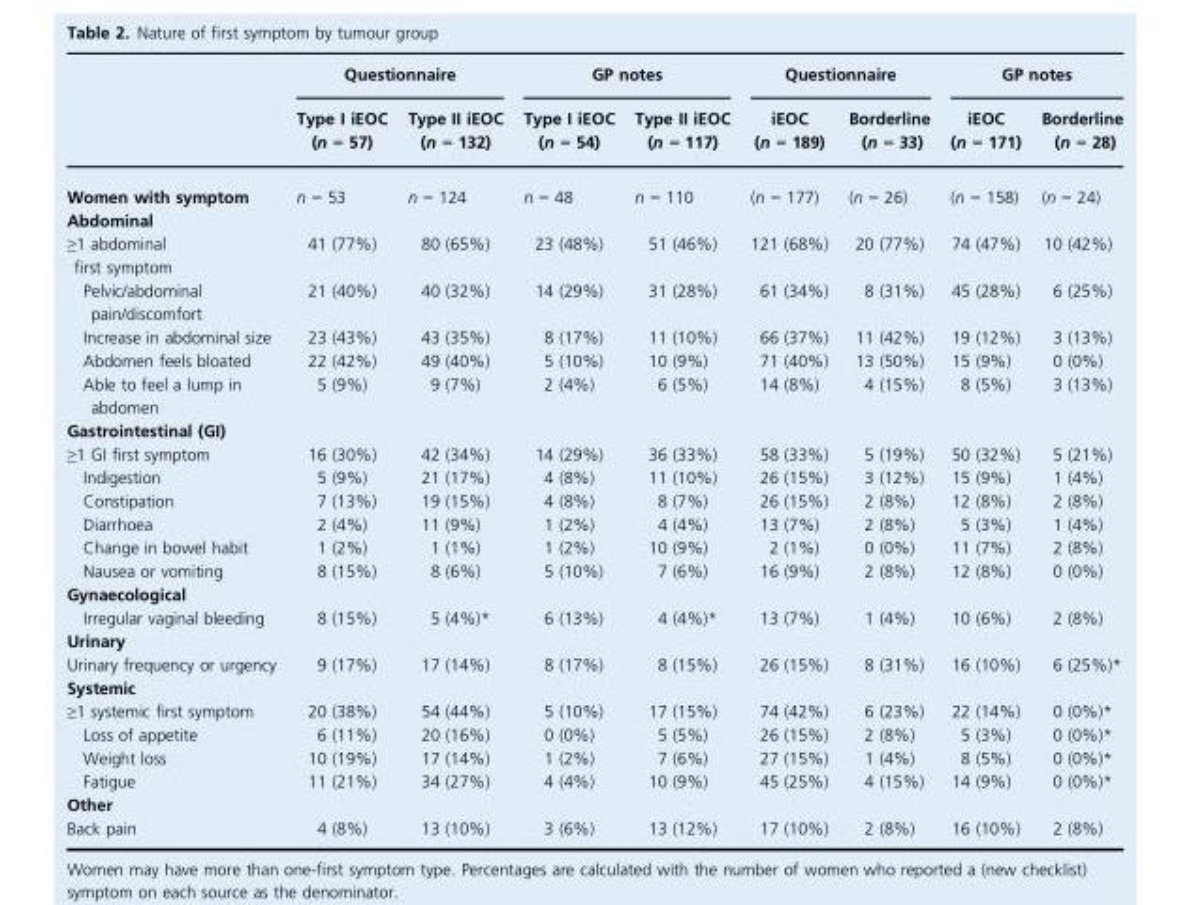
<table><thead><tr><td rowspan="2"></td><td colspan="2">Questionnaire</td><td colspan="2">GP notes</td><td colspan="2">Questionnaire</td><td colspan="2">GP notes</td></tr><tr><td>Type I iEOC (n = 57)</td><td>Type II iEOC (n = 132)</td><td>Type I iEOC (n = 54)</td><td>Type II iEOC (n = 117)</td><td>iEOC (n = 189)</td><td>Borderline (n = 33)</td><td>iEOC (n = 171)</td><td>Borderline (n = 28)</td></tr></thead><tbody><tr><td>Women with symptom</td><td>n = 53</td><td>n = 124</td><td>n = 48</td><td>n = 110</td><td>(n = 177)</td><td>(n = 26)</td><td>(n = 158)</td><td>(n = 24)</td></tr><tr><td colspan="9">Abdominal</td></tr><tr><td>≥1 abdominal first symptom</td><td>41 (77%)</td><td>80 (65%)</td><td>23 (48%)</td><td>51 (46%)</td><td>121 (68%)</td><td>20 (77%)</td><td>74 (47%)</td><td>10 (42%)</td></tr><tr><td>Pelvic/abdominal pain/discomfort</td><td>21 (40%)</td><td>40 (32%)</td><td>14 (29%)</td><td>31 (28%)</td><td>61 (34%)</td><td>8 (31%)</td><td>45 (28%)</td><td>6 (25%)</td></tr><tr><td>Increase in abdominal size</td><td>23 (43%)</td><td>43 (35%)</td><td>8 (17%)</td><td>11 (10%)</td><td>66 (37%)</td><td>11 (42%)</td><td>19 (12%)</td><td>3 (13%)</td></tr><tr><td>Abdomen feels bloated</td><td>22 (42%)</td><td>49 (40%)</td><td>5 (10%)</td><td>10 (9%)</td><td>71 (40%)</td><td>13 (50%)</td><td>15 (9%)</td><td>0 (0%)</td></tr><tr><td>Able to feel a lump in abdomen</td><td>5 (9%)</td><td>9 (7%)</td><td>2 (4%)</td><td>6 (5%)</td><td>14 (8%)</td><td>4 (15%)</td><td>8 (5%)</td><td>3 (13%)</td></tr><tr><td colspan="9">Gastrointestinal (GI)</td></tr><tr><td>≥1 GI first symptom</td><td>16 (30%)</td><td>42 (34%)</td><td>14 (29%)</td><td>36 (33%)</td><td>58 (33%)</td><td>5 (19%)</td><td>50 (32%)</td><td>5 (21%)</td></tr><tr><td>Indigestion</td><td>5 (9%)</td><td>21 (17%)</td><td>4 (8%)</td><td>11 (10%)</td><td>26 (15%)</td><td>3 (12%)</td><td>15 (9%)</td><td>1 (4%)</td></tr><tr><td>Constipation</td><td>7 (13%)</td><td>19 (15%)</td><td>4 (8%)</td><td>8 (7%)</td><td>26 (15%)</td><td>2 (8%)</td><td>12 (8%)</td><td>2 (8%)</td></tr><tr><td>Diarrhoea</td><td>2 (4%)</td><td>11 (9%)</td><td>1 (2%)</td><td>4 (4%)</td><td>13 (7%)</td><td>2 (8%)</td><td>5 (3%)</td><td>1 (4%)</td></tr><tr><td>Change in bowel habit</td><td>1 (2%)</td><td>1 (1%)</td><td>1 (2%)</td><td>10 (9%)</td><td>2 (1%)</td><td>0 (0%)</td><td>11 (7%)</td><td>2 (8%)</td></tr><tr><td>Nausea or vomiting</td><td>8 (15%)</td><td>8 (6%)</td><td>5 (10%)</td><td>7 (6%)</td><td>16 (9%)</td><td>2 (8%)</td><td>12 (8%)</td><td>0 (0%)</td></tr><tr><td colspan="9">Gynaecological</td></tr><tr><td>Irregular vaginal bleeding</td><td>8 (15%)</td><td>5 (4%)*</td><td>6 (13%)</td><td>4 (4%)*</td><td>13 (7%)</td><td>1 (4%)</td><td>10 (6%)</td><td>2 (8%)</td></tr><tr><td colspan="9">Urinary</td></tr><tr><td>Urinary frequency or urgency</td><td>9 (17%)</td><td>17 (14%)</td><td>8 (17%)</td><td>8 (15%)</td><td>26 (15%)</td><td>8 (31%)</td><td>16 (10%)</td><td>6 (25%)*</td></tr><tr><td colspan="9">Systemic</td></tr><tr><td>≥1 systemic first symptom</td><td>20 (38%)</td><td>54 (44%)</td><td>5 (10%)</td><td>17 (15%)</td><td>74 (42%)</td><td>6 (23%)</td><td>22 (14%)</td><td>0 (0%)*</td></tr><tr><td>Loss of appetite</td><td>6 (11%)</td><td>20 (16%)</td><td>0 (0%)</td><td>5 (5%)</td><td>26 (15%)</td><td>2 (8%)</td><td>5 (3%)</td><td>0 (0%)*</td></tr><tr><td>Weight loss</td><td>10 (19%)</td><td>17 (14%)</td><td>1 (2%)</td><td>7 (6%)</td><td>27 (15%)</td><td>1 (4%)</td><td>8 (5%)</td><td>0 (0%)*</td></tr><tr><td>Fatigue</td><td>11 (21%)</td><td>34 (27%)</td><td>4 (4%)</td><td>10 (9%)</td><td>45 (25%)</td><td>4 (15%)</td><td>14 (9%)</td><td>0 (0%)*</td></tr><tr><td colspan="9">Other</td></tr><tr><td>Back pain</td><td>4 (8%)</td><td>13 (10%)</td><td>3 (6%)</td><td>13 (12%)</td><td>17 (10%)</td><td>2 (8%)</td><td>16 (10%)</td><td>2 (8%)</td></tr></tbody></table>